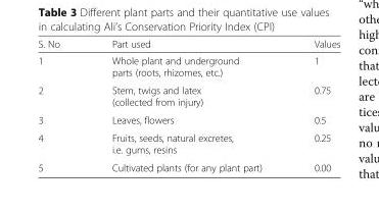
<table><thead><tr><td>S. No</td><td>Part used</td><td>Values</td></tr></thead><tbody><tr><td>1</td><td>Whole plant and underground parts (roots, rhizomes, etc.)</td><td>1</td></tr><tr><td>2</td><td>Stem, twigs and latex (collected from injury)</td><td>0.75</td></tr><tr><td>3</td><td>Leaves, flowers</td><td>0.5</td></tr><tr><td>4</td><td>Fruits, seeds, natural excretes, i.e. gums, resins</td><td>0.25</td></tr><tr><td>5</td><td>Cultivated plants (for any plant part)</td><td>0.00</td></tr></tbody></table>